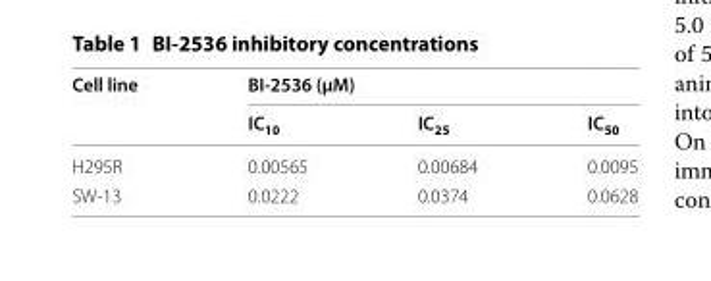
<table><thead><tr><td rowspan="2">Cell line</td><td colspan="3">BI‑2536 (µM)</td></tr><tr><td>IC<sub>10</sub></td><td>IC<sub>25</sub></td><td>IC<sub>50</sub></td></tr></thead><tbody><tr><td>H295R</td><td>0.00565</td><td>0.00684</td><td>0.0095</td></tr><tr><td>SW-13</td><td>0.0222</td><td>0.0374</td><td>0.0628</td></tr></tbody></table>